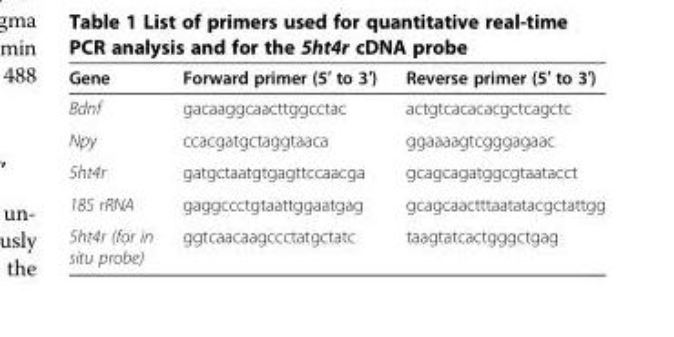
<table><thead><tr><td>Gene</td><td>Forward primer (5′ to 3′)</td><td>Reverse primer (5′ to 3′)</td></tr></thead><tbody><tr><td>Bdnf</td><td>gacaaggcaacttggcctac</td><td>actgtcacacacgctcagctc</td></tr><tr><td>Npy</td><td>ccacgatgctaggtaaca</td><td>ggaaaagtcgggagaac</td></tr><tr><td>5ht4r</td><td>gatgctaatgtgagttccaacga</td><td>gcagcagatggcgtaatacct</td></tr><tr><td>18S rRNA</td><td>gaggccctgtaattggaatgag</td><td>gcagcaactttaatatacgctattgg</td></tr><tr><td>5ht4r (for in situ probe)</td><td>ggtcaacaagccctatgctatc</td><td>taagtatcactgggctgag</td></tr></tbody></table>